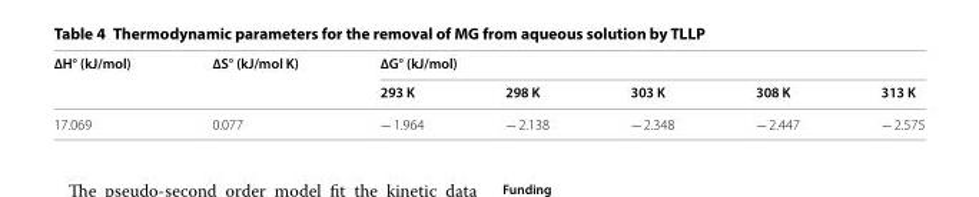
<table><thead><tr><td rowspan="2">∆H° (kJ/mol)</td><td rowspan="2">∆S° (kJ/mol K)</td><td colspan="5">∆G° (kJ/mol)</td></tr><tr><td>293 K</td><td>298 K</td><td>303 K</td><td>308 K</td><td>313 K</td></tr></thead><tbody><tr><td>17.069</td><td>0.077</td><td>− 1.964</td><td>− 2.138</td><td>− 2.348</td><td>− 2.447</td><td>− 2.575</td></tr></tbody></table>